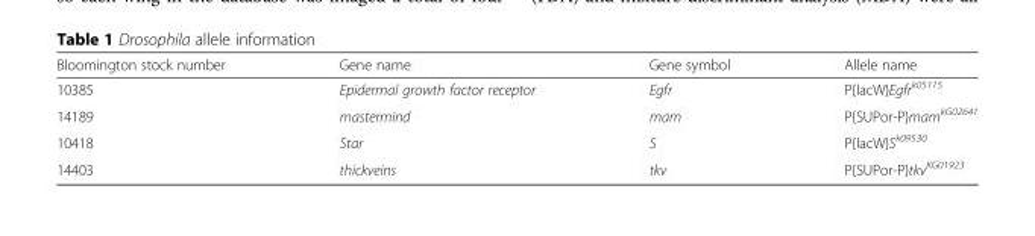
<table><thead><tr><td>Bloomington stock number</td><td>Gene name</td><td>Gene symbol</td><td>Allele name</td></tr></thead><tbody><tr><td>10385</td><td>Epidermal growth factor receptor</td><td>Egfr</td><td>P{lacW}Egfr<sup>k05115</sup></td></tr><tr><td>14189</td><td>mastermind</td><td>mam</td><td>P{SUPor-P}mam<sup>kG02641</sup></td></tr><tr><td>10418</td><td>Star</td><td>S</td><td>P{lacW}S<sup>k09530</sup></td></tr><tr><td>14403</td><td>thickveins</td><td>tkv</td><td>P{SUPor-P}tkv<sup>KG01923</sup></td></tr></tbody></table>